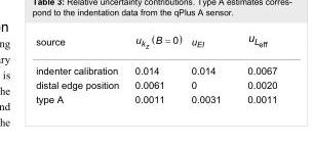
<table><tbody><tr><td>source</td><td></td><td>uEI</td><td></td></tr><tr><td>indenter calibration</td><td>0.014</td><td>0.014</td><td>0.0067</td></tr><tr><td>distal edge position</td><td>0.0061</td><td>0</td><td>0.0020</td></tr><tr><td>type A</td><td>0.0011</td><td>0.0031</td><td>0.0011</td></tr></tbody></table>